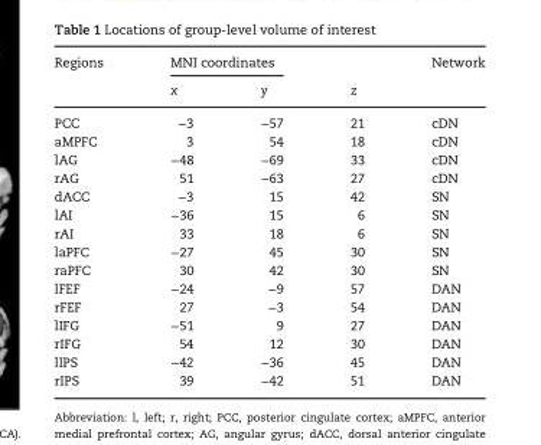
<table><thead><tr><td rowspan="2">Regions</td><td colspan="2">MNI coordinates</td><td rowspan="2">z</td><td rowspan="2">Network</td></tr><tr><td>x</td><td>y</td></tr></thead><tbody><tr><td>PCC</td><td>−3</td><td>−57</td><td>21</td><td>cDN</td></tr><tr><td>aMPFC</td><td>3</td><td>54</td><td>18</td><td>cDN</td></tr><tr><td>lAG</td><td>−48</td><td>−69</td><td>33</td><td>cDN</td></tr><tr><td>rAG</td><td>51</td><td>−63</td><td>27</td><td>cDN</td></tr><tr><td>dACC</td><td>−3</td><td>15</td><td>42</td><td>SN</td></tr><tr><td>lAI</td><td>−36</td><td>15</td><td>6</td><td>SN</td></tr><tr><td>rAI</td><td>33</td><td>18</td><td>6</td><td>SN</td></tr><tr><td>laPFC</td><td>−27</td><td>45</td><td>30</td><td>SN</td></tr><tr><td>raPFC</td><td>30</td><td>42</td><td>30</td><td>SN</td></tr><tr><td>lFEF</td><td>−24</td><td>−9</td><td>57</td><td>DAN</td></tr><tr><td>rFEF</td><td>27</td><td>−3</td><td>54</td><td>DAN</td></tr><tr><td>lIFG</td><td>−51</td><td>9</td><td>27</td><td>DAN</td></tr><tr><td>rIFG</td><td>54</td><td>12</td><td>30</td><td>DAN</td></tr><tr><td>lIPS</td><td>−42</td><td>−36</td><td>45</td><td>DAN</td></tr><tr><td>rIPS</td><td>39</td><td>−42</td><td>51</td><td>DAN</td></tr></tbody></table>